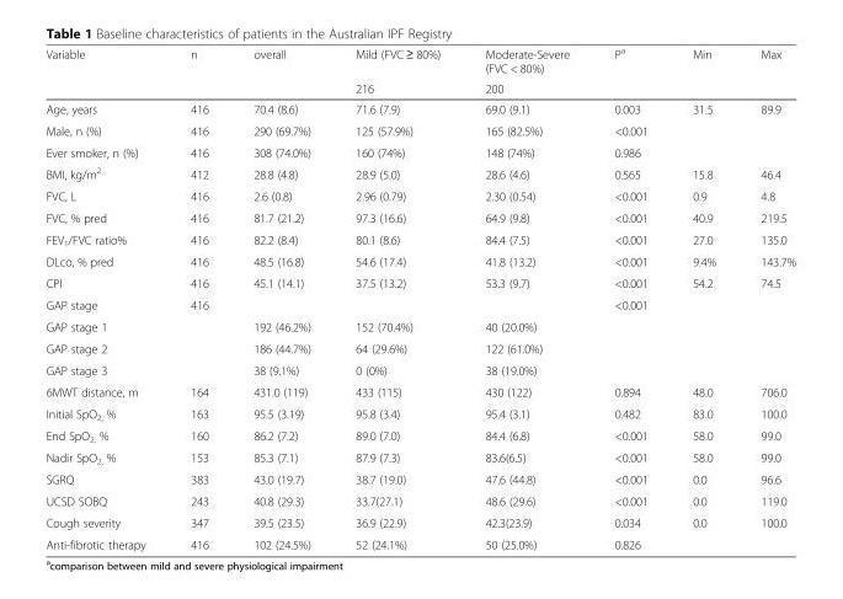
<table><thead><tr><td rowspan="2">Variable</td><td rowspan="2">n</td><td rowspan="2">overall</td><td rowspan="2">Mild (FVC ≥ 80%) 216</td><td rowspan="2">Moderate-Severe (FVC &lt; 80%) 200</td><td rowspan="2">P<sup>a</sup></td><td rowspan="2">Min</td><td rowspan="2">Max</td></tr><tr></tr></thead><tbody><tr><td>Age, years</td><td>416</td><td>70.4 (8.6)</td><td>71.6 (7.9)</td><td>69.0 (9.1)</td><td>0.003</td><td>31.5</td><td>89.9</td></tr><tr><td>Male, n (%)</td><td>416</td><td>290 (69.7%)</td><td>125 (57.9%)</td><td>165 (82.5%)</td><td>&lt;0.001</td><td></td><td></td></tr><tr><td>Ever smoker, n (%)</td><td>416</td><td>308 (74.0%)</td><td>160 (74%)</td><td>148 (74%)</td><td>0.986</td><td></td><td></td></tr><tr><td>BMI, kg/m<sup>2</sup></td><td>412</td><td>28.8 (4.8)</td><td>28.9 (5.0)</td><td>28.6 (4.6)</td><td>0.565</td><td>15.8</td><td>46.4</td></tr><tr><td>FVC, L</td><td>416</td><td>2.6 (0.8)</td><td>2.96 (0.79)</td><td>2.30 (0.54)</td><td>&lt;0.001</td><td>0.9</td><td>4.8</td></tr><tr><td>FVC, % pred</td><td>416</td><td>81.7 (21.2)</td><td>97.3 (16.6)</td><td>64.9 (9.8)</td><td>&lt;0.001</td><td>40.9</td><td>219.5</td></tr><tr><td>FEV<sub>1</sub>/FVC ratio%</td><td>416</td><td>82.2 (8.4)</td><td>80.1 (8.6)</td><td>84.4 (7.5)</td><td>&lt;0.001</td><td>27.0</td><td>135.0</td></tr><tr><td>DLco, % pred</td><td>416</td><td>48.5 (16.8)</td><td>54.6 (17.4)</td><td>41.8 (13.2)</td><td>&lt;0.001</td><td>9.4%</td><td>143.7%</td></tr><tr><td>CPI</td><td>416</td><td>45.1 (14.1)</td><td>37.5 (13.2)</td><td>53.3 (9.7)</td><td>&lt;0.001</td><td>54.2</td><td>74.5</td></tr><tr><td>GAP stage</td><td>416</td><td></td><td></td><td></td><td>&lt;0.001</td><td></td><td></td></tr><tr><td>GAP stage 1</td><td></td><td>192 (46.2%)</td><td>152 (70.4%)</td><td>40 (20.0%)</td><td></td><td></td><td></td></tr><tr><td>GAP stage 2</td><td></td><td>186 (44.7%)</td><td>64 (29.6%)</td><td>122 (61.0%)</td><td></td><td></td><td></td></tr><tr><td>GAP stage 3</td><td></td><td>38 (9.1%)</td><td>0 (0%)</td><td>38 (19.0%)</td><td></td><td></td><td></td></tr><tr><td>6MWT distance, m</td><td>164</td><td>431.0 (119)</td><td>433 (115)</td><td>430 (122)</td><td>0.894</td><td>48.0</td><td>706.0</td></tr><tr><td>Initial SpO<sub>2,</sub> %</td><td>163</td><td>95.5 (3.19)</td><td>95.8 (3.4)</td><td>95.4 (3.1)</td><td>0.482</td><td>83.0</td><td>100.0</td></tr><tr><td>End SpO<sub>2,</sub> %</td><td>160</td><td>86.2 (7.2)</td><td>89.0 (7.0)</td><td>84.4 (6.8)</td><td>&lt;0.001</td><td>58.0</td><td>99.0</td></tr><tr><td>Nadir SpO<sub>2,</sub> %</td><td>153</td><td>85.3 (7.1)</td><td>87.9 (7.3)</td><td>83.6(6.5)</td><td>&lt;0.001</td><td>58.0</td><td>99.0</td></tr><tr><td>SGRQ</td><td>383</td><td>43.0 (19.7)</td><td>38.7 (19.0)</td><td>47.6 (44.8)</td><td>&lt;0.001</td><td>0.0</td><td>96.6</td></tr><tr><td>UCSD SOBQ</td><td>243</td><td>40.8 (29.3)</td><td>33.7(27.1)</td><td>48.6 (29.6)</td><td>&lt;0.001</td><td>0.0</td><td>119.0</td></tr><tr><td>Cough severity</td><td>347</td><td>39.5 (23.5)</td><td>36.9 (22.9)</td><td>42.3(23.9)</td><td>0.034</td><td>0.0</td><td>100.0</td></tr><tr><td>Anti-fibrotic therapy</td><td>416</td><td>102 (24.5%)</td><td>52 (24.1%)</td><td>50 (25.0%)</td><td>0.826</td><td></td><td></td></tr></tbody></table>